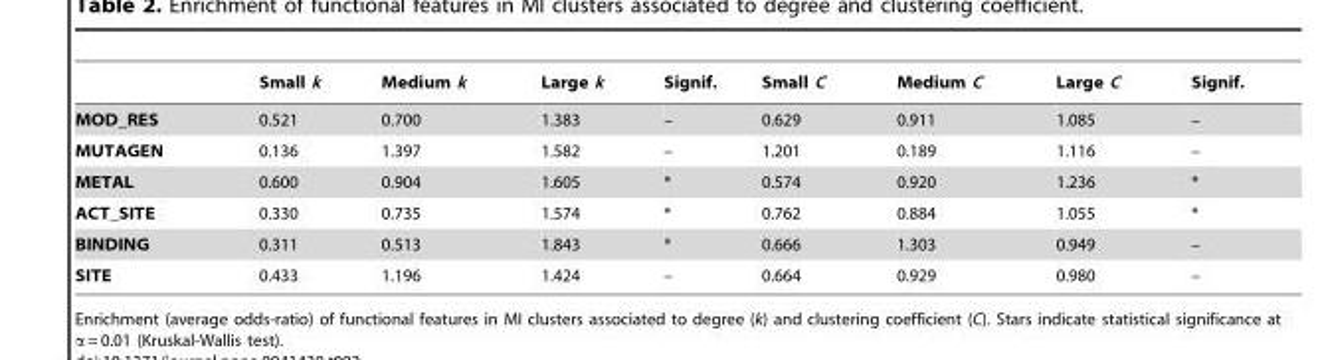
<table><thead><tr><td></td><td>Small k</td><td>Medium k</td><td>Large k</td><td>Signif.</td><td>Small C</td><td>Medium C</td><td>Large C</td><td>Signif.</td></tr></thead><tbody><tr><td>MOD_RES</td><td>0.521</td><td>0.700</td><td>1.383</td><td>–</td><td>0.629</td><td>0.911</td><td>1.085</td><td>–</td></tr><tr><td>MUTAGEN</td><td>0.136</td><td>1.397</td><td>1.582</td><td>–</td><td>1.201</td><td>0.189</td><td>1.116</td><td>–</td></tr><tr><td>METAL</td><td>0.600</td><td>0.904</td><td>1.605</td><td>*</td><td>0.574</td><td>0.920</td><td>1.236</td><td>*</td></tr><tr><td>ACT_SITE</td><td>0.330</td><td>0.735</td><td>1.574</td><td>*</td><td>0.762</td><td>0.884</td><td>1.055</td><td>*</td></tr><tr><td>BINDING</td><td>0.311</td><td>0.513</td><td>1.843</td><td>*</td><td>0.666</td><td>1.303</td><td>0.949</td><td>–</td></tr><tr><td>SITE</td><td>0.433</td><td>1.196</td><td>1.424</td><td>–</td><td>0.664</td><td>0.929</td><td>0.980</td><td>–</td></tr></tbody></table>